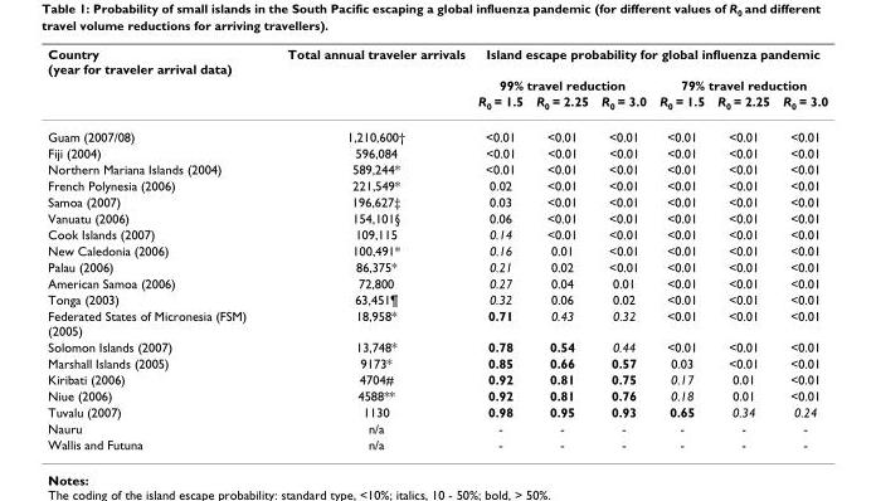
<table><thead><tr><td rowspan="3">Country (year for traveler arrival data)</td><td rowspan="3">Total annual traveler arrivals</td><td colspan="6">Island escape probability for global influenza pandemic</td></tr><tr><td colspan="3">99% travel reduction</td><td colspan="3">79% travel reduction</td></tr><tr><td>R<sub>0</sub> = 1.5</td><td>R<sub>0</sub> = 2.25</td><td>R<sub>0</sub> = 3.0</td><td>R<sub>0</sub> = 1.5</td><td>R<sub>0</sub> = 2.25</td><td>R<sub>0</sub> = 3.0</td></tr></thead><tbody><tr><td>Guam (2007/08)</td><td>1,210,600†</td><td>&lt;0.01</td><td>&lt;0.01</td><td>&lt;0.01</td><td>&lt;0.01</td><td>&lt;0.01</td><td>&lt;0.01</td></tr><tr><td>Fiji (2004)</td><td>596,084</td><td>&lt;0.01</td><td>&lt;0.01</td><td>&lt;0.01</td><td>&lt;0.01</td><td>&lt;0.01</td><td>&lt;0.01</td></tr><tr><td>Northern Mariana Islands (2004)</td><td>589,244*</td><td>&lt;0.01</td><td>&lt;0.01</td><td>&lt;0.01</td><td>&lt;0.01</td><td>&lt;0.01</td><td>&lt;0.01</td></tr><tr><td>French Polynesia (2006)</td><td>221,549*</td><td>0.02</td><td>&lt;0.01</td><td>&lt;0.01</td><td>&lt;0.01</td><td>&lt;0.01</td><td>&lt;0.01</td></tr><tr><td>Samoa (2007)</td><td>196,627‡</td><td>0.03</td><td>&lt;0.01</td><td>&lt;0.01</td><td>&lt;0.01</td><td>&lt;0.01</td><td>&lt;0.01</td></tr><tr><td>Vanuatu (2006)</td><td>154,101§</td><td>0.06</td><td>&lt;0.01</td><td>&lt;0.01</td><td>&lt;0.01</td><td>&lt;0.01</td><td>&lt;0.01</td></tr><tr><td>Cook Islands (2007)</td><td>109,115</td><td>0.14</td><td>&lt;0.01</td><td>&lt;0.01</td><td>&lt;0.01</td><td>&lt;0.01</td><td>&lt;0.01</td></tr><tr><td>New Caledonia (2006)</td><td>100,491*</td><td>0.16</td><td>0.01</td><td>&lt;0.01</td><td>&lt;0.01</td><td>&lt;0.01</td><td>&lt;0.01</td></tr><tr><td>Palau (2006)</td><td>86,375*</td><td>0.21</td><td>0.02</td><td>&lt;0.01</td><td>&lt;0.01</td><td>&lt;0.01</td><td>&lt;0.01</td></tr><tr><td>American Samoa (2006)</td><td>72,800</td><td>0.27</td><td>0.04</td><td>0.01</td><td>&lt;0.01</td><td>&lt;0.01</td><td>&lt;0.01</td></tr><tr><td>Tonga (2003)</td><td>63,451¶</td><td>0.32</td><td>0.06</td><td>0.02</td><td>&lt;0.01</td><td>&lt;0.01</td><td>&lt;0.01</td></tr><tr><td>Federated States of Micronesia (FSM) (2005)</td><td>18,958*</td><td>0.71</td><td>0.43</td><td>0.32</td><td>&lt;0.01</td><td>&lt;0.01</td><td>&lt;0.01</td></tr><tr><td>Solomon Islands (2007)</td><td>13,748*</td><td>0.78</td><td>0.54</td><td>0.44</td><td>&lt;0.01</td><td>&lt;0.01</td><td>&lt;0.01</td></tr><tr><td>Marshall Islands (2005)</td><td>9173*</td><td>0.85</td><td>0.66</td><td>0.57</td><td>0.03</td><td>&lt;0.01</td><td>&lt;0.01</td></tr><tr><td>Kiribati (2006)</td><td>4704#</td><td>0.92</td><td>0.81</td><td>0.75</td><td>0.17</td><td>0.01</td><td>&lt;0.01</td></tr><tr><td>Niue (2006)</td><td>4588**</td><td>0.92</td><td>0.81</td><td>0.76</td><td>0.18</td><td>0.01</td><td>&lt;0.01</td></tr><tr><td>Tuvalu (2007)</td><td>1130</td><td>0.98</td><td>0.95</td><td>0.93</td><td>0.65</td><td>0.34</td><td>0.24</td></tr><tr><td>Nauru</td><td>n/a</td><td>-</td><td>-</td><td>-</td><td>-</td><td>-</td><td>-</td></tr><tr><td>Wallis and Futuna</td><td>n/a</td><td>-</td><td>-</td><td>-</td><td>-</td><td>-</td><td>-</td></tr></tbody></table>